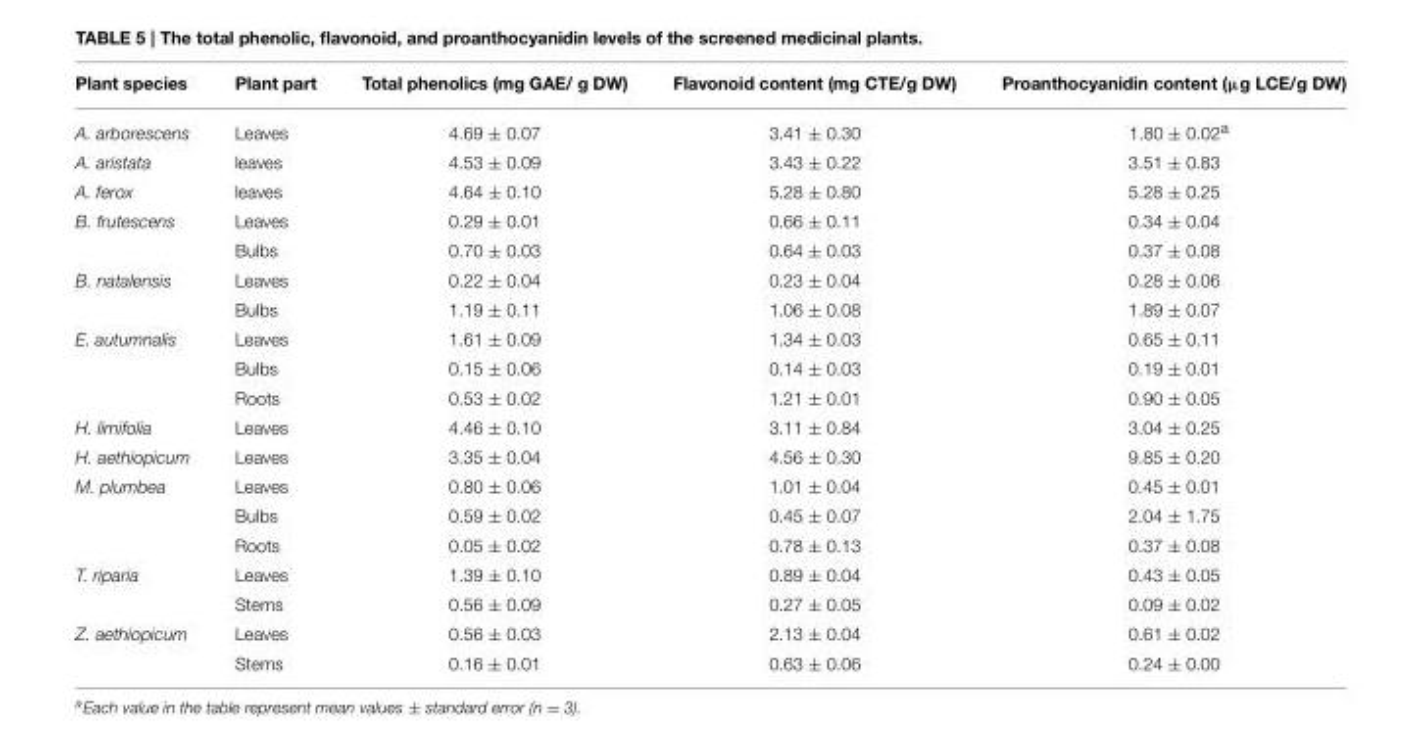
<table><thead><tr><td>Plant species</td><td>Plant part</td><td>Total phenolics (mg GAE/ g DW)</td><td>Flavonoid content (mg CTE/g DW)</td><td>Proanthocyanidin content (µg LCE/g DW)</td></tr></thead><tbody><tr><td>A. arborescens</td><td>Leaves</td><td>4.69 ± 0.07</td><td>3.41 ± 0.30</td><td>1.80 ± 0.02<sup>a</sup></td></tr><tr><td>A. aristata</td><td>leaves</td><td>4.53 ± 0.09</td><td>3.43 ± 0.22</td><td>3.51 ± 0.83</td></tr><tr><td>A. ferox</td><td>leaves</td><td>4.64 ± 0.10</td><td>5.28 ± 0.80</td><td>5.28 ± 0.25</td></tr><tr><td rowspan="2">B. frutescens</td><td>Leaves</td><td>0.29 ± 0.01</td><td>0.66 ± 0.11</td><td>0.34 ± 0.04</td></tr><tr><td>Bulbs</td><td>0.70 ± 0.03</td><td>0.64 ± 0.03</td><td>0.37 ± 0.08</td></tr><tr><td rowspan="2">B. natalensis</td><td>Leaves</td><td>0.22 ± 0.04</td><td>0.23 ± 0.04</td><td>0.28 ± 0.06</td></tr><tr><td>Bulbs</td><td>1.19 ± 0.11</td><td>1.06 ± 0.08</td><td>1.89 ± 0.07</td></tr><tr><td rowspan="3">E. autumnalis</td><td>Leaves</td><td>1.61 ± 0.09</td><td>1.34 ± 0.03</td><td>0.65 ± 0.11</td></tr><tr><td>Bulbs</td><td>0.15 ± 0.06</td><td>0.14 ± 0.03</td><td>0.19 ± 0.01</td></tr><tr><td>Roots</td><td>0.53 ± 0.02</td><td>1.21 ± 0.01</td><td>0.90 ± 0.05</td></tr><tr><td>H. limifolia</td><td>Leaves</td><td>4.46 ± 0.10</td><td>3.11 ± 0.84</td><td>3.04 ± 0.25</td></tr><tr><td>H. aethiopicum</td><td>Leaves</td><td>3.35 ± 0.04</td><td>4.56 ± 0.30</td><td>9.85 ± 0.20</td></tr><tr><td rowspan="3">M. plumbea</td><td>Leaves</td><td>0.80 ± 0.06</td><td>1.01 ± 0.04</td><td>0.45 ± 0.01</td></tr><tr><td>Bulbs</td><td>0.59 ± 0.02</td><td>0.45 ± 0.07</td><td>2.04 ± 1.75</td></tr><tr><td>Roots</td><td>0.05 ± 0.02</td><td>0.78 ± 0.13</td><td>0.37 ± 0.08</td></tr><tr><td rowspan="2">T. riparia</td><td>Leaves</td><td>1.39 ± 0.10</td><td>0.89 ± 0.04</td><td>0.43 ± 0.05</td></tr><tr><td>Stems</td><td>0.56 ± 0.09</td><td>0.27 ± 0.05</td><td>0.09 ± 0.02</td></tr><tr><td rowspan="2">Z. aethiopicum</td><td>Leaves</td><td>0.56 ± 0.03</td><td>2.13 ± 0.04</td><td>0.61 ± 0.02</td></tr><tr><td>Stems</td><td>0.16 ± 0.01</td><td>0.63 ± 0.06</td><td>0.24 ± 0.00</td></tr></tbody></table>